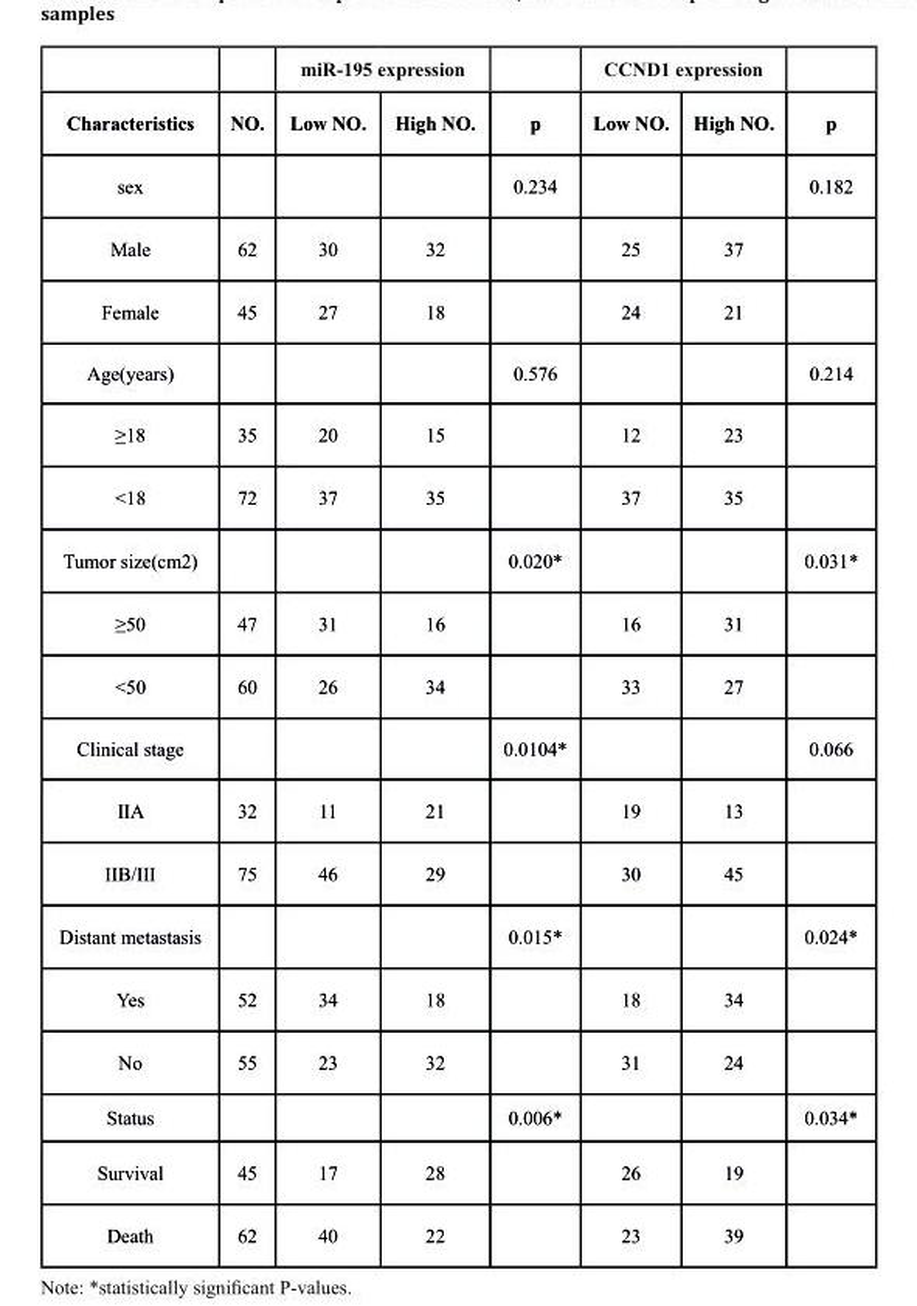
<table><thead><tr><td rowspan="2">Characteristics</td><td rowspan="2">NO.</td><td colspan="2">miR-195 expression</td><td rowspan="2">p</td><td colspan="2">CCND1 expression</td><td rowspan="2">p</td></tr><tr><td>Low NO.</td><td>High NO.</td><td>Low NO.</td><td>High NO.</td></tr></thead><tbody><tr><td>sex</td><td></td><td></td><td></td><td>0.234</td><td></td><td></td><td>0.182</td></tr><tr><td>Male</td><td>62</td><td>30</td><td>32</td><td></td><td>25</td><td>37</td><td></td></tr><tr><td>Female</td><td>45</td><td>27</td><td>18</td><td></td><td>24</td><td>21</td><td></td></tr><tr><td>Age(years)</td><td></td><td></td><td></td><td>0.576</td><td></td><td></td><td>0.214</td></tr><tr><td>≥18</td><td>35</td><td>20</td><td>15</td><td></td><td>12</td><td>23</td><td></td></tr><tr><td>&lt;18</td><td>72</td><td>37</td><td>35</td><td></td><td>37</td><td>35</td><td></td></tr><tr><td>Tumor size(cm2)</td><td></td><td></td><td></td><td>0.020*</td><td></td><td></td><td>0.031*</td></tr><tr><td>≥50</td><td>47</td><td>31</td><td>16</td><td></td><td>16</td><td>31</td><td></td></tr><tr><td>&lt;50</td><td>60</td><td>26</td><td>34</td><td></td><td>33</td><td>27</td><td></td></tr><tr><td>Clinical stage</td><td></td><td></td><td></td><td>0.0104*</td><td></td><td></td><td>0.066</td></tr><tr><td>IIA</td><td>32</td><td>11</td><td>21</td><td></td><td>19</td><td>13</td><td></td></tr><tr><td>IIB/III</td><td>75</td><td>46</td><td>29</td><td></td><td>30</td><td>45</td><td></td></tr><tr><td>Distant metastasis</td><td></td><td></td><td></td><td>0.015*</td><td></td><td></td><td>0.024*</td></tr><tr><td>Yes</td><td>52</td><td>34</td><td>18</td><td></td><td>18</td><td>34</td><td></td></tr><tr><td>No</td><td>55</td><td>23</td><td>32</td><td></td><td>31</td><td>24</td><td></td></tr><tr><td>Status</td><td></td><td></td><td></td><td>0.006*</td><td></td><td></td><td>0.034*</td></tr><tr><td>Survival</td><td>45</td><td>17</td><td>28</td><td></td><td>26</td><td>19</td><td></td></tr><tr><td>Death</td><td>62</td><td>40</td><td>22</td><td></td><td>23</td><td>39</td><td></td></tr></tbody></table>